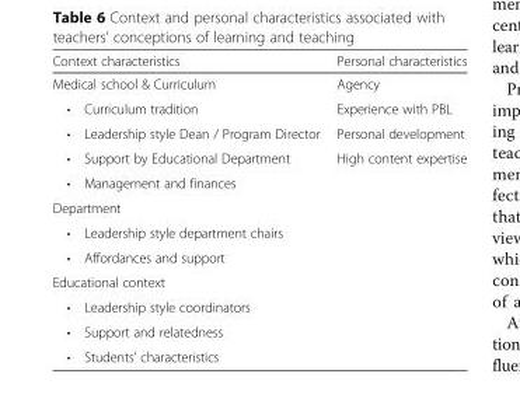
<table><thead><tr><td>Context characteristics</td><td>Personal characteristics</td></tr></thead><tbody><tr><td>Medical school &amp; Curriculum</td><td>Agency</td></tr><tr><td>• Curriculum tradition</td><td>Experience with PBL</td></tr><tr><td>• Leadership style Dean / Program Director</td><td>Personal development</td></tr><tr><td>• Support by Educational Department</td><td>High content expertise</td></tr><tr><td colspan="2">• Management and finances</td></tr><tr><td colspan="2">Department</td></tr><tr><td colspan="2">• Leadership style department chairs</td></tr><tr><td colspan="2">• Affordances and support</td></tr><tr><td colspan="2">Educational context</td></tr><tr><td colspan="2">• Leadership style coordinators</td></tr><tr><td colspan="2">• Support and relatedness</td></tr><tr><td>• Students’ characteristics</td><td></td></tr></tbody></table>